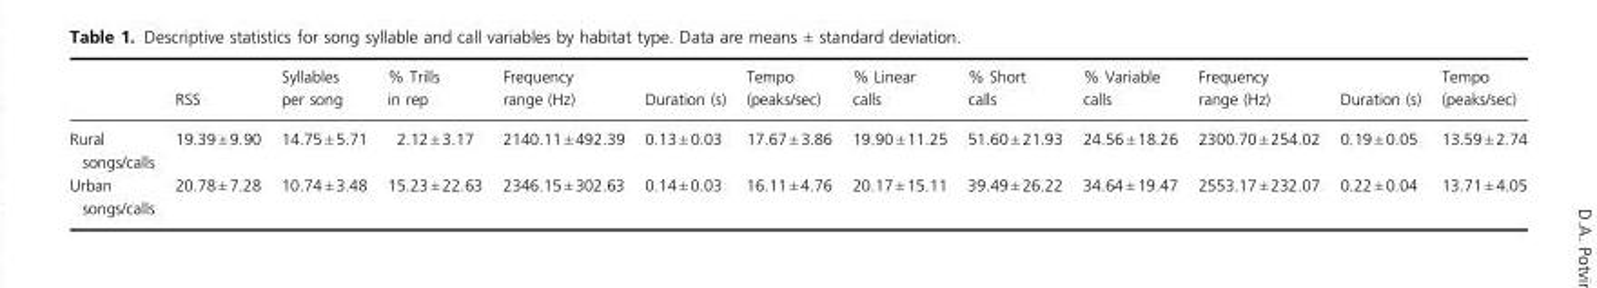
<table><thead><tr><td></td><td>RSS</td><td>Syllables per song</td><td>% Trills in rep</td><td>Frequency range (Hz)</td><td>Duration (s)</td><td>Tempo (peaks/sec)</td><td>% Linear calls</td><td>% Short calls</td><td>% Variable calls</td><td>Frequency range (Hz)</td><td>Duration (s)</td><td>Tempo (peaks/sec)</td></tr></thead><tbody><tr><td>Rural songs/calls</td><td>19.39 ± 9.90</td><td>14.75 ± 5.71</td><td>2.12 ± 3.17</td><td>2140.11 ± 492.39</td><td>0.13 ± 0.03</td><td>17.67 ± 3.86</td><td>19.90 ± 11.25</td><td>51.60 ± 21.93</td><td>24.56 ± 18.26</td><td>2300.70 ± 254.02</td><td>0.19 ± 0.05</td><td>13.59 ± 2.74</td></tr><tr><td>Urban songs/calls</td><td>20.78 ± 7.28</td><td>10.74 ± 3.48</td><td>15.23 ± 22.63</td><td>2346.15 ± 302.63</td><td>0.14 ± 0.03</td><td>16.11 ± 4.76</td><td>20.17 ± 15.11</td><td>39.49 ± 26.22</td><td>34.64 ± 19.47</td><td>2553.17 ± 232.07</td><td>0.22 ± 0.04</td><td>13.71 ± 4.05</td></tr></tbody></table>